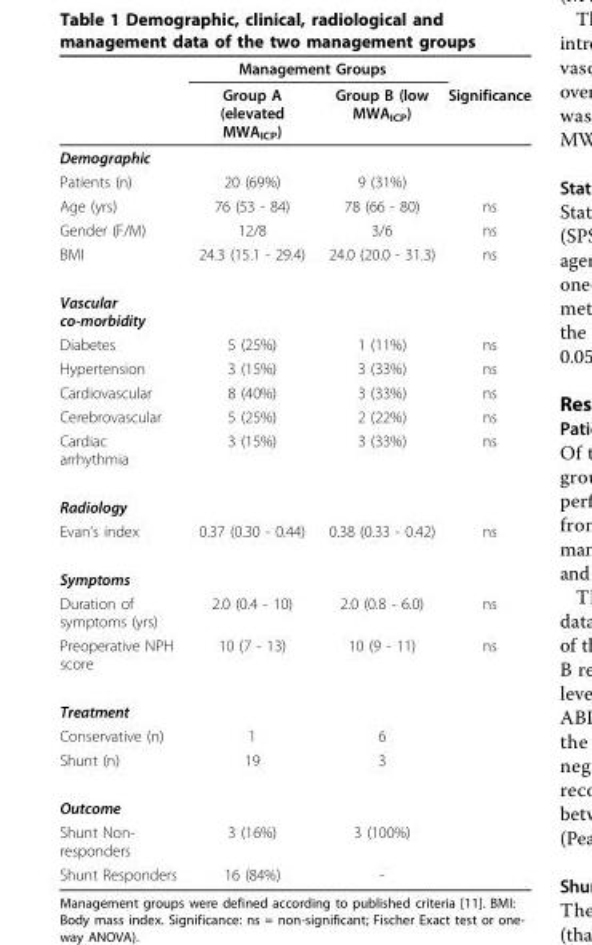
<table><thead><tr><td rowspan="2"></td><td colspan="2">Management Groups</td><td rowspan="2">Significance</td></tr><tr><td>Group A (elevated MWA<sub>ICP</sub>)</td><td>Group B (low MWA<sub>ICP</sub>)</td></tr></thead><tbody><tr><td colspan="4">Demographic</td></tr><tr><td>Patients (n)</td><td>20 (69%)</td><td>9 (31%)</td><td></td></tr><tr><td>Age (yrs)</td><td>76 (53 - 84)</td><td>78 (66 - 80)</td><td>ns</td></tr><tr><td>Gender (F/M)</td><td>12/8</td><td>3/6</td><td>ns</td></tr><tr><td>BMI</td><td>24.3 (15.1 - 29.4)</td><td>24.0 (20.0 - 31.3)</td><td>ns</td></tr><tr><td colspan="4">Vascular co-morbidity</td></tr><tr><td>Diabetes</td><td>5 (25%)</td><td>1 (11%)</td><td>ns</td></tr><tr><td>Hypertension</td><td>3 (15%)</td><td>3 (33%)</td><td>ns</td></tr><tr><td>Cardiovascular</td><td>8 (40%)</td><td>3 (33%)</td><td>ns</td></tr><tr><td>Cerebrovascular</td><td>5 (25%)</td><td>2 (22%)</td><td>ns</td></tr><tr><td>Cardiac arrhythmia</td><td>3 (15%)</td><td>3 (33%)</td><td>ns</td></tr><tr><td colspan="4">Radiology</td></tr><tr><td>Evan’s index</td><td>0.37 (0.30 - 0.44)</td><td>0.38 (0.33 - 0.42)</td><td>ns</td></tr><tr><td colspan="4">Symptoms</td></tr><tr><td>Duration of symptoms (yrs)</td><td>2.0 (0.4 - 10)</td><td>2.0 (0.8 - 6.0)</td><td>ns</td></tr><tr><td>Preoperative NPH score</td><td>10 (7 - 13)</td><td>10 (9 - 11)</td><td>ns</td></tr><tr><td colspan="4">Treatment</td></tr><tr><td>Conservative (n)</td><td>1</td><td>6</td><td></td></tr><tr><td>Shunt (n)</td><td>19</td><td>3</td><td></td></tr><tr><td colspan="4">Outcome</td></tr><tr><td>Shunt Non- responders</td><td>3 (16%)</td><td>3 (100%)</td><td></td></tr><tr><td>Shunt Responders</td><td>16 (84%)</td><td>-</td><td></td></tr></tbody></table>